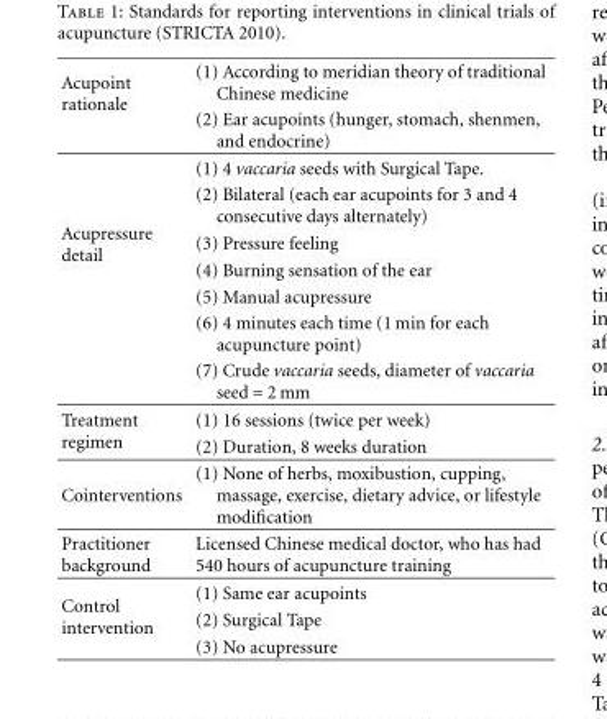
<table><tbody><tr><td rowspan="2">Acupoint rationale</td><td>(1) According to meridian theory of traditional Chinese medicine</td></tr><tr><td>(2) Ear acupoints (hunger, stomach, shenmen, and endocrine)</td></tr><tr><td rowspan="7">Acupressure detail</td><td>(1) 4 vaccaria seeds with Surgical Tape.</td></tr><tr><td>(2) Bilateral (each ear acupoints for 3 and 4 consecutive days alternately)</td></tr><tr><td>(3) Pressure feeling</td></tr><tr><td>(4) Burning sensation of the ear</td></tr><tr><td>(5) Manual acupressure</td></tr><tr><td>(6) 4 minutes each time (1 min for each acupuncture point)</td></tr><tr><td>(7) Crude vaccaria seeds, diameter of vaccaria seed = 2 mm</td></tr><tr><td rowspan="2">Treatment regimen</td><td>(1) 16 sessions (twice per week)</td></tr><tr><td>(2) Duration, 8 weeks duration</td></tr><tr><td>Cointerventions</td><td>(1) None of herbs, moxibustion, cupping, massage, exercise, dietary advice, or lifestyle modification</td></tr><tr><td>Practitioner background</td><td>Licensed Chinese medical doctor, who has had 540 hours of acupuncture training</td></tr><tr><td rowspan="3">Control intervention</td><td>(1) Same ear acupoints</td></tr><tr><td>(2) Surgical Tape</td></tr><tr><td>(3) No acupressure</td></tr></tbody></table>